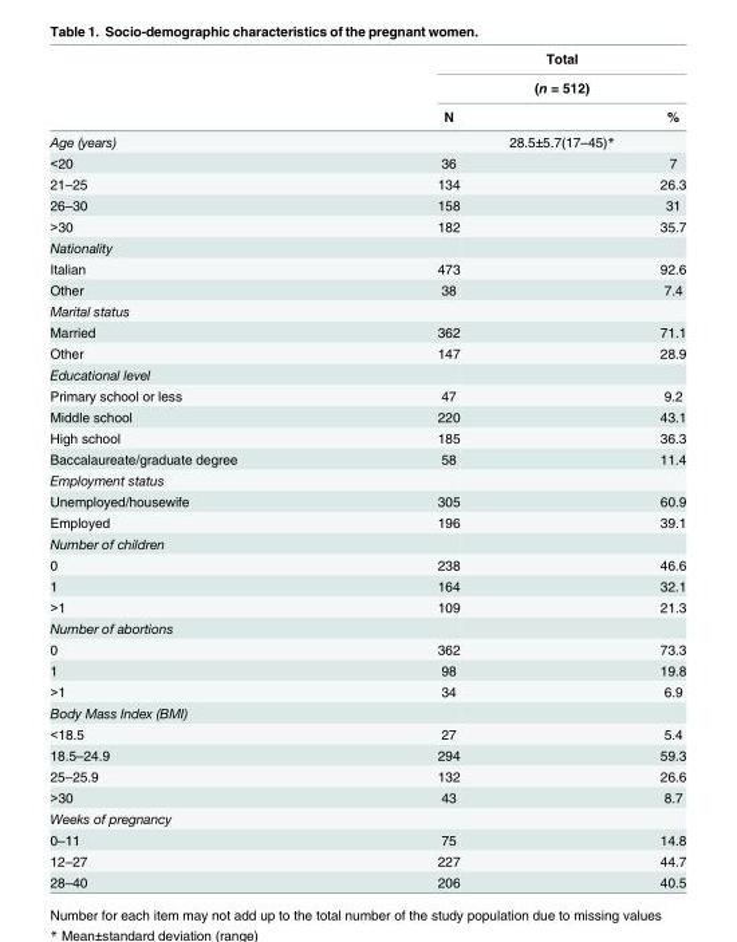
<table><thead><tr><td rowspan="3"></td><td rowspan="2" colspan="2">Total (n = 512)</td></tr><tr></tr><tr><td>N</td><td>%</td></tr></thead><tbody><tr><td>Age (years)</td><td colspan="2">28.5±5.7(17–45)*</td></tr><tr><td>&lt;20</td><td>36</td><td>7</td></tr><tr><td>21–25</td><td>134</td><td>26.3</td></tr><tr><td>26–30</td><td>158</td><td>31</td></tr><tr><td>&gt;30</td><td>182</td><td>35.7</td></tr><tr><td colspan="3">Nationality</td></tr><tr><td>Italian</td><td>473</td><td>92.6</td></tr><tr><td>Other</td><td>38</td><td>7.4</td></tr><tr><td colspan="3">Marital status</td></tr><tr><td>Married</td><td>362</td><td>71.1</td></tr><tr><td>Other</td><td>147</td><td>28.9</td></tr><tr><td colspan="3">Educational level</td></tr><tr><td>Primary school or less</td><td>47</td><td>9.2</td></tr><tr><td>Middle school</td><td>220</td><td>43.1</td></tr><tr><td>High school</td><td>185</td><td>36.3</td></tr><tr><td>Baccalaureate/graduate degree</td><td>58</td><td>11.4</td></tr><tr><td colspan="3">Employment status</td></tr><tr><td>Unemployed/housewife</td><td>305</td><td>60.9</td></tr><tr><td>Employed</td><td>196</td><td>39.1</td></tr><tr><td colspan="3">Number of children</td></tr><tr><td>0</td><td>238</td><td>46.6</td></tr><tr><td>1</td><td>164</td><td>32.1</td></tr><tr><td>&gt;1</td><td>109</td><td>21.3</td></tr><tr><td colspan="3">Number of abortions</td></tr><tr><td>0</td><td>362</td><td>73.3</td></tr><tr><td>1</td><td>98</td><td>19.8</td></tr><tr><td>&gt;1</td><td>34</td><td>6.9</td></tr><tr><td colspan="3">Body Mass Index (BMI)</td></tr><tr><td>&lt;18.5</td><td>27</td><td>5.4</td></tr><tr><td>18.5–24.9</td><td>294</td><td>59.3</td></tr><tr><td>25–25.9</td><td>132</td><td>26.6</td></tr><tr><td>&gt;30</td><td>43</td><td>8.7</td></tr><tr><td colspan="3">Weeks of pregnancy</td></tr><tr><td>0–11</td><td>75</td><td>14.8</td></tr><tr><td>12–27</td><td>227</td><td>44.7</td></tr><tr><td>28–40</td><td>206</td><td>40.5</td></tr></tbody></table>